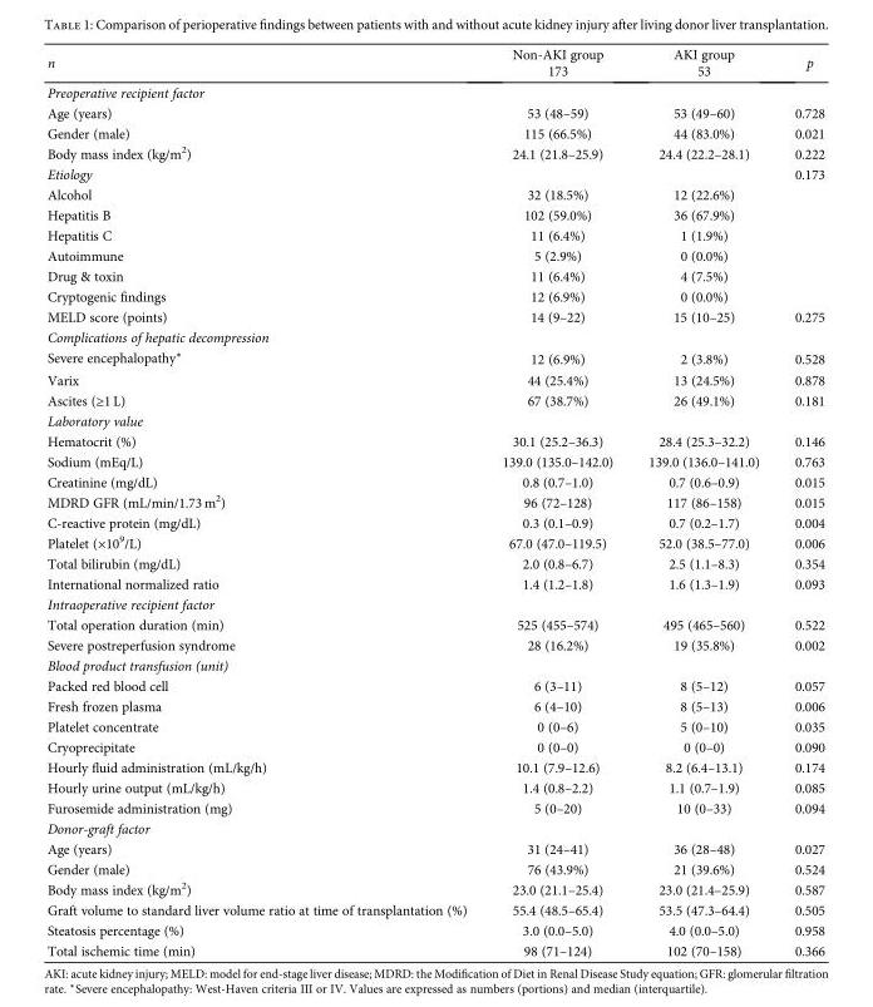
<table><thead><tr><td rowspan="2">n</td><td rowspan="2">Non-AKI group 173</td><td rowspan="2">AKI group 53</td><td rowspan="2">p</td></tr><tr></tr></thead><tbody><tr><td colspan="4">Preoperative recipient factor</td></tr><tr><td>Age (years)</td><td>53 (48–59)</td><td>53 (49–60)</td><td>0.728</td></tr><tr><td>Gender (male)</td><td>115 (66.5%)</td><td>44 (83.0%)</td><td>0.021</td></tr><tr><td>Body mass index (kg/m<sup>2</sup>)</td><td>24.1 (21.8–25.9)</td><td>24.4 (22.2–28.1)</td><td>0.222</td></tr><tr><td>Etiology</td><td></td><td></td><td>0.173</td></tr><tr><td>Alcohol</td><td>32 (18.5%)</td><td>12 (22.6%)</td><td></td></tr><tr><td>Hepatitis B</td><td>102 (59.0%)</td><td>36 (67.9%)</td><td></td></tr><tr><td>Hepatitis C</td><td>11 (6.4%)</td><td>1 (1.9%)</td><td></td></tr><tr><td>Autoimmune</td><td>5 (2.9%)</td><td>0 (0.0%)</td><td></td></tr><tr><td>Drug &amp; toxin</td><td>11 (6.4%)</td><td>4 (7.5%)</td><td></td></tr><tr><td>Cryptogenic findings</td><td>12 (6.9%)</td><td>0 (0.0%)</td><td></td></tr><tr><td>MELD score (points)</td><td>14 (9–22)</td><td>15 (10–25)</td><td>0.275</td></tr><tr><td colspan="4">Complications of hepatic decompression</td></tr><tr><td>Severe encephalopathy∗</td><td>12 (6.9%)</td><td>2 (3.8%)</td><td>0.528</td></tr><tr><td>Varix</td><td>44 (25.4%)</td><td>13 (24.5%)</td><td>0.878</td></tr><tr><td>Ascites (≥1 L)</td><td>67 (38.7%)</td><td>26 (49.1%)</td><td>0.181</td></tr><tr><td colspan="4">Laboratory value</td></tr><tr><td>Hematocrit (%)</td><td>30.1 (25.2–36.3)</td><td>28.4 (25.3–32.2)</td><td>0.146</td></tr><tr><td>Sodium (mEq/L)</td><td>139.0 (135.0–142.0)</td><td>139.0 (136.0–141.0)</td><td>0.763</td></tr><tr><td>Creatinine (mg/dL)</td><td>0.8 (0.7–1.0)</td><td>0.7 (0.6–0.9)</td><td>0.015</td></tr><tr><td>MDRD GFR (mL/min/1.73 m<sup>2</sup>)</td><td>96 (72–128)</td><td>117 (86–158)</td><td>0.015</td></tr><tr><td>C-reactive protein (mg/dL)</td><td>0.3 (0.1–0.9)</td><td>0.7 (0.2–1.7)</td><td>0.004</td></tr><tr><td>Platelet (×10<sup>9</sup>/L)</td><td>67.0 (47.0–119.5)</td><td>52.0 (38.5–77.0)</td><td>0.006</td></tr><tr><td>Total bilirubin (mg/dL)</td><td>2.0 (0.8–6.7)</td><td>2.5 (1.1–8.3)</td><td>0.354</td></tr><tr><td>International normalized ratio</td><td>1.4 (1.2–1.8)</td><td>1.6 (1.3–1.9)</td><td>0.093</td></tr><tr><td colspan="4">Intraoperative recipient factor</td></tr><tr><td>Total operation duration (min)</td><td>525 (455–574)</td><td>495 (465–560)</td><td>0.522</td></tr><tr><td>Severe postreperfusion syndrome</td><td>28 (16.2%)</td><td>19 (35.8%)</td><td>0.002</td></tr><tr><td colspan="4">Blood product transfusion (unit)</td></tr><tr><td>Packed red blood cell</td><td>6 (3–11)</td><td>8 (5–12)</td><td>0.057</td></tr><tr><td>Fresh frozen plasma</td><td>6 (4–10)</td><td>8 (5–13)</td><td>0.006</td></tr><tr><td>Platelet concentrate</td><td>0 (0–6)</td><td>5 (0–10)</td><td>0.035</td></tr><tr><td>Cryoprecipitate</td><td>0 (0–0)</td><td>0 (0–0)</td><td>0.090</td></tr><tr><td>Hourly fluid administration (mL/kg/h)</td><td>10.1 (7.9–12.6)</td><td>8.2 (6.4–13.1)</td><td>0.174</td></tr><tr><td>Hourly urine output (mL/kg/h)</td><td>1.4 (0.8–2.2)</td><td>1.1 (0.7–1.9)</td><td>0.085</td></tr><tr><td>Furosemide administration (mg)</td><td>5 (0–20)</td><td>10 (0–33)</td><td>0.094</td></tr><tr><td colspan="4">Donor-graft factor</td></tr><tr><td>Age (years)</td><td>31 (24–41)</td><td>36 (28–48)</td><td>0.027</td></tr><tr><td>Gender (male)</td><td>76 (43.9%)</td><td>21 (39.6%)</td><td>0.524</td></tr><tr><td>Body mass index (kg/m<sup>2</sup>)</td><td>23.0 (21.1–25.4)</td><td>23.0 (21.4–25.9)</td><td>0.587</td></tr><tr><td>Graft volume to standard liver volume ratio at time of transplantation (%)</td><td>55.4 (48.5–65.4)</td><td>53.5 (47.3–64.4)</td><td>0.505</td></tr><tr><td>Steatosis percentage (%)</td><td>3.0 (0.0–5.0)</td><td>4.0 (0.0–5.0)</td><td>0.958</td></tr><tr><td>Total ischemic time (min)</td><td>98 (71–124)</td><td>102 (70–158)</td><td>0.366</td></tr></tbody></table>